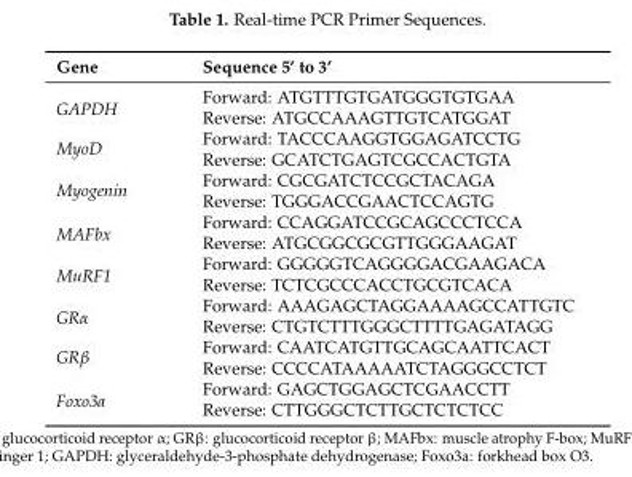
<table><thead><tr><td>Gene</td><td>Sequence 5’ to 3’</td></tr></thead><tbody><tr><td rowspan="2">GAPDH</td><td>Forward: ATGTTTGTGATGGGTGTGAA</td></tr><tr><td>Reverse: ATGCCAAAGTTGTCATGGAT</td></tr><tr><td rowspan="2">MyoD</td><td>Forward: TACCCAAGGTGGAGATCCTG</td></tr><tr><td>Reverse: GCATCTGAGTCGCCACTGTA</td></tr><tr><td rowspan="2">Myogenin</td><td>Forward: CGCGATCTCCGCTACAGA</td></tr><tr><td>Reverse: TGGGACCGAACTCCAGTG</td></tr><tr><td rowspan="2">MAFbx</td><td>Forward: CCAGGATCCGCAGCCCTCCA</td></tr><tr><td>Reverse: ATGCGGCGCGTTGGGAAGAT</td></tr><tr><td rowspan="2">MuRF1</td><td>Forward: GGGGGTCAGGGGACGAAGACA</td></tr><tr><td>Reverse: TCTCGCCCACCTGCGTCACA</td></tr><tr><td rowspan="2">GRα</td><td>Forward: AAAGAGCTAGGAAAAGCCATTGTC</td></tr><tr><td>Reverse: CTGTCTTTGGGCTTTTGAGATAGG</td></tr><tr><td rowspan="2">GRβ</td><td>Forward: CAATCATGTTGCAGCAATTCACT</td></tr><tr><td>Reverse: CCCCATAAAAATCTAGGGCCTCT</td></tr><tr><td rowspan="2">Foxo3a</td><td>Forward: GAGCTGGAGCTCGAACCTT</td></tr><tr><td>Reverse: CTTGGGCTCTTGCTCTCTCC</td></tr></tbody></table>